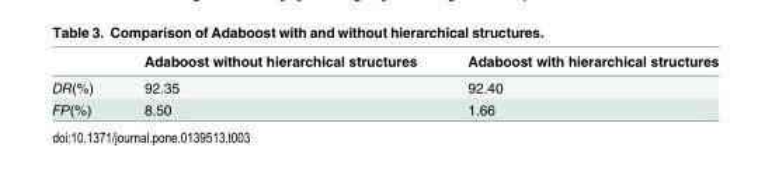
<table><thead><tr><td></td><td>Adaboost without hierarchical structures</td><td>Adaboost with hierarchical structures</td></tr></thead><tbody><tr><td>DR(%)</td><td>92.35</td><td>92.40</td></tr><tr><td>FP(%)</td><td>8.50</td><td>1.66</td></tr></tbody></table>